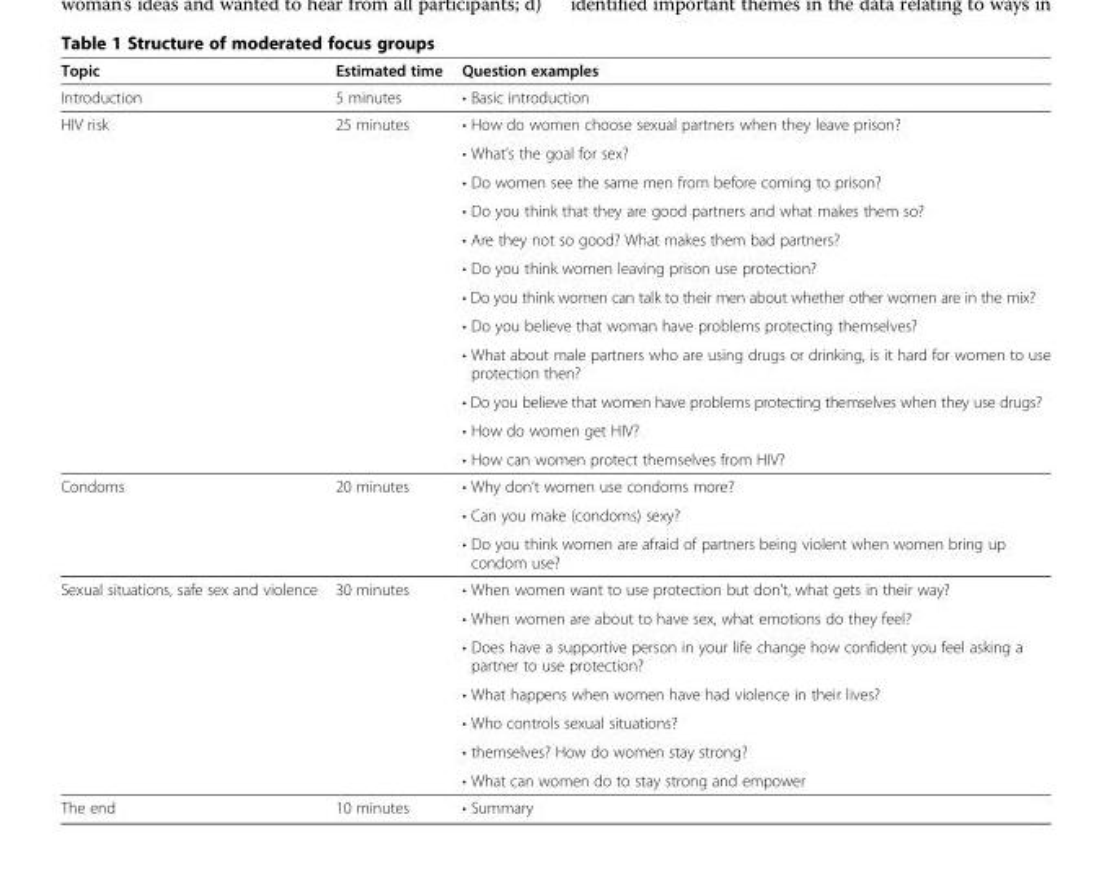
<table><thead><tr><td>Topic</td><td>Estimated time</td><td>Question examples</td></tr></thead><tbody><tr><td>Introduction</td><td>5 minutes</td><td>• Basic introduction</td></tr><tr><td rowspan="12">HIV risk</td><td rowspan="11">25 minutes</td><td>• How do women choose sexual partners when they leave prison?</td></tr><tr><td>• What’s the goal for sex?</td></tr><tr><td>• Do women see the same men from before coming to prison?</td></tr><tr><td>• Do you think that they are good partners and what makes them so?</td></tr><tr><td>• Are they not so good? What makes them bad partners?</td></tr><tr><td>• Do you think women leaving prison use protection?</td></tr><tr><td>• Do you think women can talk to their men about whether other women are in the mix?</td></tr><tr><td>• Do you believe that woman have problems protecting themselves?</td></tr><tr><td>• What about male partners who are using drugs or drinking, is it hard for women to use protection then?</td></tr><tr><td>• Do you believe that women have problems protecting themselves when they use drugs?</td></tr><tr><td>• How do women get HIV?</td></tr><tr><td></td><td>• How can women protect themselves from HIV?</td></tr><tr><td rowspan="3">Condoms</td><td rowspan="2">20 minutes</td><td>• Why don’t women use condoms more?</td></tr><tr><td>• Can you make (condoms) sexy?</td></tr><tr><td></td><td>• Do you think women are afraid of partners being violent when women bring up condom use?</td></tr><tr><td rowspan="7">Sexual situations, safe sex and violence</td><td rowspan="7">30 minutes</td><td>• When women want to use protection but don’t, what gets in their way?</td></tr><tr><td>• When women are about to have sex, what emotions do they feel?</td></tr><tr><td>• Does have a supportive person in your life change how confident you feel asking a partner to use protection?</td></tr><tr><td>• What happens when women have had violence in their lives?</td></tr><tr><td>• Who controls sexual situations?</td></tr><tr><td>• themselves? How do women stay strong?</td></tr><tr><td>• What can women do to stay strong and empower</td></tr><tr><td>The end</td><td>10 minutes</td><td>• Summary</td></tr></tbody></table>